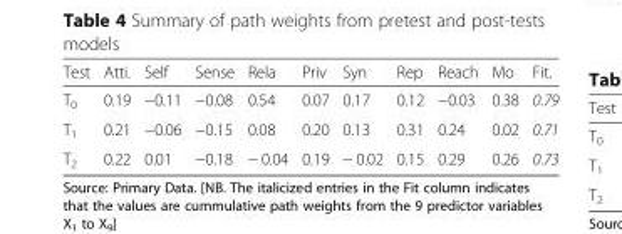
<table><thead><tr><td>Test</td><td>Atti.</td><td>Self</td><td>Sense</td><td>Rela</td><td>Priv</td><td>Syn</td><td>Rep</td><td>Reach</td><td>Mo</td><td>Fit.</td></tr></thead><tbody><tr><td>T<sub>0</sub></td><td>0.19</td><td>−0.11</td><td>−0.08</td><td>0.54</td><td>0.07</td><td>0.17</td><td>0.12</td><td>−0.03</td><td>0.38</td><td>0.79</td></tr><tr><td>T<sub>1</sub></td><td>0.21</td><td>−0.06</td><td>−0.15</td><td>0.08</td><td>0.20</td><td>0.13</td><td>0.31</td><td>0.24</td><td>0.02</td><td>0.71</td></tr><tr><td>T<sub>2</sub></td><td>0.22</td><td>0.01</td><td>−0.18</td><td>− 0.04</td><td>0.19</td><td>− 0.02</td><td>0.15</td><td>0.29</td><td>0.26</td><td>0.73</td></tr></tbody></table>